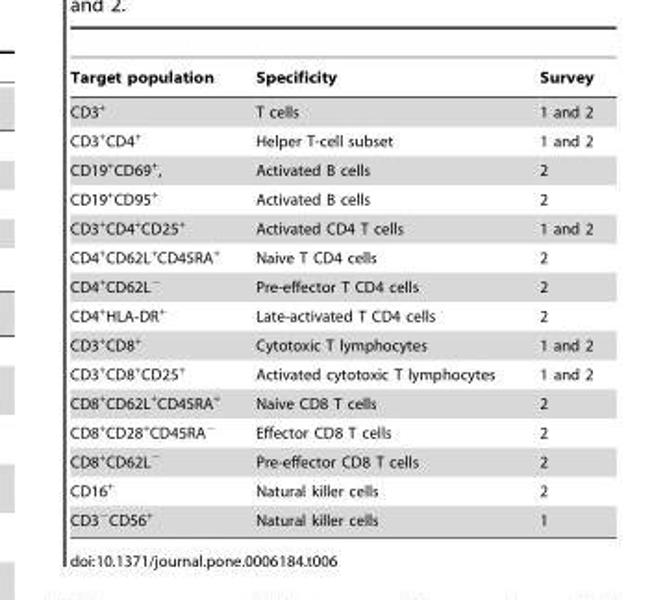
<table><thead><tr><td>Target population</td><td>Specificity</td><td>Survey</td></tr></thead><tbody><tr><td>CD3<sup>+</sup></td><td>T cells</td><td>1 and 2</td></tr><tr><td>CD3<sup>+</sup>CD4<sup>+</sup></td><td>Helper T-cell subset</td><td>1 and 2</td></tr><tr><td>CD19<sup>+</sup>CD69<sup>+</sup>,</td><td>Activated B cells</td><td>2</td></tr><tr><td>CD19<sup>+</sup>CD95<sup>+</sup></td><td>Activated B cells</td><td>2</td></tr><tr><td>CD3<sup>+</sup>CD4<sup>+</sup>CD25<sup>+</sup></td><td>Activated CD4 T cells</td><td>1 and 2</td></tr><tr><td>CD4<sup>+</sup>CD62L<sup>+</sup>CD45RA<sup>+</sup></td><td>Naive T CD4 cells</td><td>2</td></tr><tr><td>CD4<sup>+</sup>CD62L<sup>−</sup></td><td>Pre-effector T CD4 cells</td><td>2</td></tr><tr><td>CD4<sup>+</sup>HLA-DR<sup>+</sup></td><td>Late-activated T CD4 cells</td><td>2</td></tr><tr><td>CD3<sup>+</sup>CD8<sup>+</sup></td><td>Cytotoxic T lymphocytes</td><td>1 and 2</td></tr><tr><td>CD3<sup>+</sup>CD8<sup>+</sup>CD25<sup>+</sup></td><td>Activated cytotoxic T lymphocytes</td><td>1 and 2</td></tr><tr><td>CD8<sup>+</sup>CD62L<sup>+</sup>CD45RA<sup>+</sup></td><td>Naive CD8 T cells</td><td>2</td></tr><tr><td>CD8<sup>+</sup>CD28<sup>+</sup>CD45RA<sup>−</sup></td><td>Effector CD8 T cells</td><td>2</td></tr><tr><td>CD8<sup>+</sup>CD62L<sup>−</sup></td><td>Pre-effector CD8 T cells</td><td>2</td></tr><tr><td>CD16<sup>+</sup></td><td>Natural killer cells</td><td>2</td></tr><tr><td>CD3<sup>−</sup>CD56<sup>+</sup></td><td>Natural killer cells</td><td>1</td></tr></tbody></table>